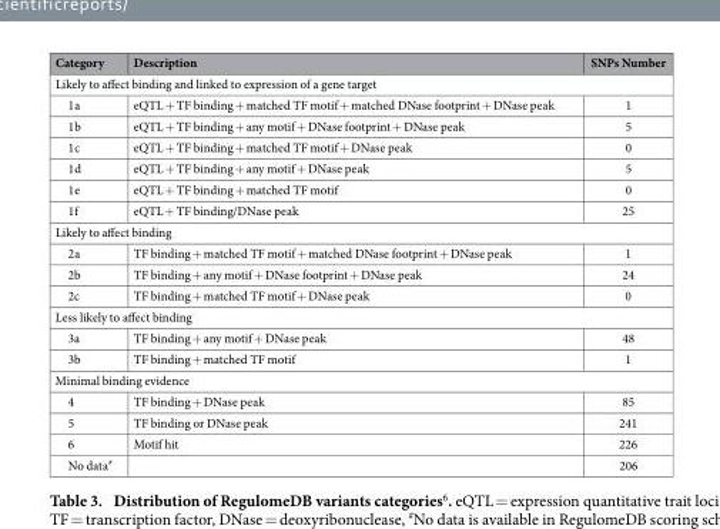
<table><thead><tr><td>Category</td><td>Description</td><td>SNPs Number</td></tr></thead><tbody><tr><td colspan="3">Likely to affect binding and linked to expression of a gene target</td></tr><tr><td>1a</td><td>eQTL + TF binding + matched TF motif + matched DNase footprint + DNase peak</td><td>1</td></tr><tr><td>1b</td><td>eQTL + TF binding + any motif + DNase footprint + DNase peak</td><td>5</td></tr><tr><td>1c</td><td>eQTL + TF binding + matched TF motif + DNase peak</td><td>0</td></tr><tr><td>1d</td><td>eQTL + TF binding + any motif + DNase peak</td><td>5</td></tr><tr><td>1e</td><td>eQTL + TF binding + matched TF motif</td><td>0</td></tr><tr><td>1f</td><td>eQTL + TF binding/DNase peak</td><td>25</td></tr><tr><td colspan="3">Likely to affect binding</td></tr><tr><td>2a</td><td>TF binding + matched TF motif + matched DNase footprint + DNase peak</td><td>1</td></tr><tr><td>2b</td><td>TF binding + any motif + DNase footprint + DNase peak</td><td>24</td></tr><tr><td>2c</td><td>TF binding + matched TF motif + DNase peak</td><td>0</td></tr><tr><td colspan="3">Less likely to affect binding</td></tr><tr><td>3a</td><td>TF binding + any motif + DNase peak</td><td>48</td></tr><tr><td>3b</td><td>TF binding + matched TF motif</td><td>1</td></tr><tr><td colspan="3">Minimal binding evidence</td></tr><tr><td>4</td><td>TF binding + DNase peak</td><td>85</td></tr><tr><td>5</td><td>TF binding or DNase peak</td><td>241</td></tr><tr><td>6</td><td>Motif hit</td><td>226</td></tr><tr><td>No data<sup>#</sup></td><td></td><td>206</td></tr></tbody></table>